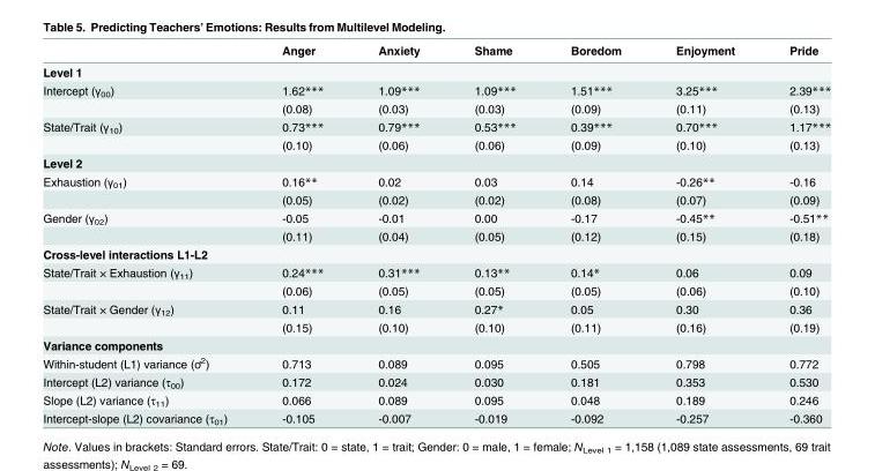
<table><thead><tr><td></td><td>Anger</td><td>Anxiety</td><td>Shame</td><td>Boredom</td><td>Enjoyment</td><td>Pride</td></tr></thead><tbody><tr><td colspan="7">Level 1</td></tr><tr><td rowspan="2">Intercept (γ<sub>00</sub>)</td><td>1.62***</td><td>1.09***</td><td>1.09***</td><td>1.51***</td><td>3.25***</td><td>2.39***</td></tr><tr><td>(0.08)</td><td>(0.03)</td><td>(0.03)</td><td>(0.09)</td><td>(0.11)</td><td>(0.13)</td></tr><tr><td rowspan="2">State/Trait (γ<sub>10</sub>)</td><td>0.73***</td><td>0.79***</td><td>0.53***</td><td>0.39***</td><td>0.70***</td><td>1.17***</td></tr><tr><td>(0.10)</td><td>(0.06)</td><td>(0.06)</td><td>(0.09)</td><td>(0.10)</td><td>(0.13)</td></tr><tr><td colspan="7">Level 2</td></tr><tr><td rowspan="2">Exhaustion (γ<sub>01</sub>)</td><td>0.16**</td><td>0.02</td><td>0.03</td><td>0.14</td><td>-0.26**</td><td>-0.16</td></tr><tr><td>(0.05)</td><td>(0.02)</td><td>(0.02)</td><td>(0.08)</td><td>(0.07)</td><td>(0.09)</td></tr><tr><td rowspan="2">Gender (γ<sub>02</sub>)</td><td>-0.05</td><td>-0.01</td><td>0.00</td><td>-0.17</td><td>-0.45**</td><td>-0.51**</td></tr><tr><td>(0.11)</td><td>(0.04)</td><td>(0.05)</td><td>(0.12)</td><td>(0.15)</td><td>(0.18)</td></tr><tr><td colspan="7">Cross-level interactions L1-L2</td></tr><tr><td rowspan="2">State/Trait × Exhaustion (γ<sub>11</sub>)</td><td>0.24***</td><td>0.31***</td><td>0.13**</td><td>0.14*</td><td>0.06</td><td>0.09</td></tr><tr><td>(0.06)</td><td>(0.05)</td><td>(0.05)</td><td>(0.05)</td><td>(0.06)</td><td>(0.10)</td></tr><tr><td rowspan="2">State/Trait × Gender (γ<sub>12</sub>)</td><td>0.11</td><td>0.16</td><td>0.27*</td><td>0.05</td><td>0.30</td><td>0.36</td></tr><tr><td>(0.15)</td><td>(0.10)</td><td>(0.10)</td><td>(0.11)</td><td>(0.16)</td><td>(0.19)</td></tr><tr><td colspan="7">Variance components</td></tr><tr><td>Within-student (L1) variance (ơ<sup>2</sup>)</td><td>0.713</td><td>0.089</td><td>0.095</td><td>0.505</td><td>0.798</td><td>0.772</td></tr><tr><td>Intercept (L2) variance (τ<sub>00</sub>)</td><td>0.172</td><td>0.024</td><td>0.030</td><td>0.181</td><td>0.353</td><td>0.530</td></tr><tr><td>Slope (L2) variance (τ<sub>11</sub>)</td><td>0.066</td><td>0.089</td><td>0.095</td><td>0.048</td><td>0.189</td><td>0.246</td></tr><tr><td>Intercept-slope (L2) covariance (τ<sub>01</sub>)</td><td>-0.105</td><td>-0.007</td><td>-0.019</td><td>-0.092</td><td>-0.257</td><td>-0.360</td></tr></tbody></table>